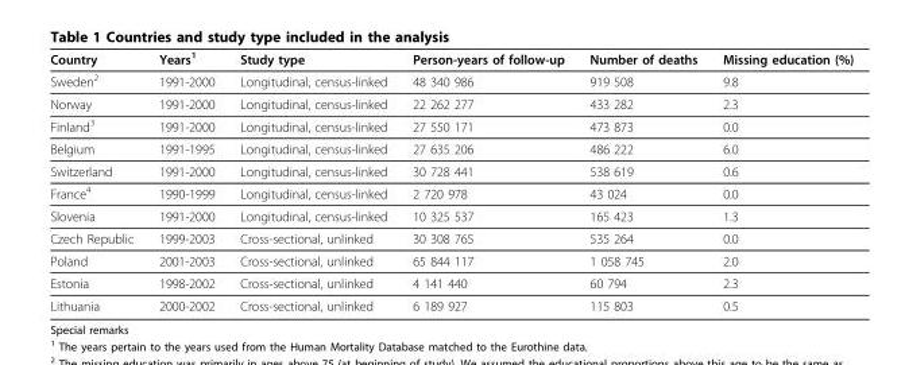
<table><thead><tr><td>Country</td><td>Years<sup>1</sup></td><td>Study type</td><td>Person-years of follow-up</td><td>Number of deaths</td><td>Missing education (%)</td></tr></thead><tbody><tr><td>Sweden<sup>2</sup></td><td>1991-2000</td><td>Longitudinal, census-linked</td><td>48 340 986</td><td>919 508</td><td>9.8</td></tr><tr><td>Norway</td><td>1991-2000</td><td>Longitudinal, census-linked</td><td>22 262 277</td><td>433 282</td><td>2.3</td></tr><tr><td>Finland<sup>3</sup></td><td>1991-2000</td><td>Longitudinal, census-linked</td><td>27 550 171</td><td>473 873</td><td>0.0</td></tr><tr><td>Belgium</td><td>1991-1995</td><td>Longitudinal, census-linked</td><td>27 635 206</td><td>486 222</td><td>6.0</td></tr><tr><td>Switzerland</td><td>1991-2000</td><td>Longitudinal, census-linked</td><td>30 728 441</td><td>538 619</td><td>0.6</td></tr><tr><td>France<sup>4</sup></td><td>1990-1999</td><td>Longitudinal, census-linked</td><td>2 720 978</td><td>43 024</td><td>0.0</td></tr><tr><td>Slovenia</td><td>1991-2000</td><td>Longitudinal, census-linked</td><td>10 325 537</td><td>165 423</td><td>1.3</td></tr><tr><td>Czech Republic</td><td>1999-2003</td><td>Cross-sectional, unlinked</td><td>30 308 765</td><td>535 264</td><td>0.0</td></tr><tr><td>Poland</td><td>2001-2003</td><td>Cross-sectional, unlinked</td><td>65 844 117</td><td>1 058 745</td><td>2.0</td></tr><tr><td>Estonia</td><td>1998-2002</td><td>Cross-sectional, unlinked</td><td>4 141 440</td><td>60 794</td><td>2.3</td></tr><tr><td>Lithuania</td><td>2000-2002</td><td>Cross-sectional, unlinked</td><td>6 189 927</td><td>115 803</td><td>0.5</td></tr></tbody></table>